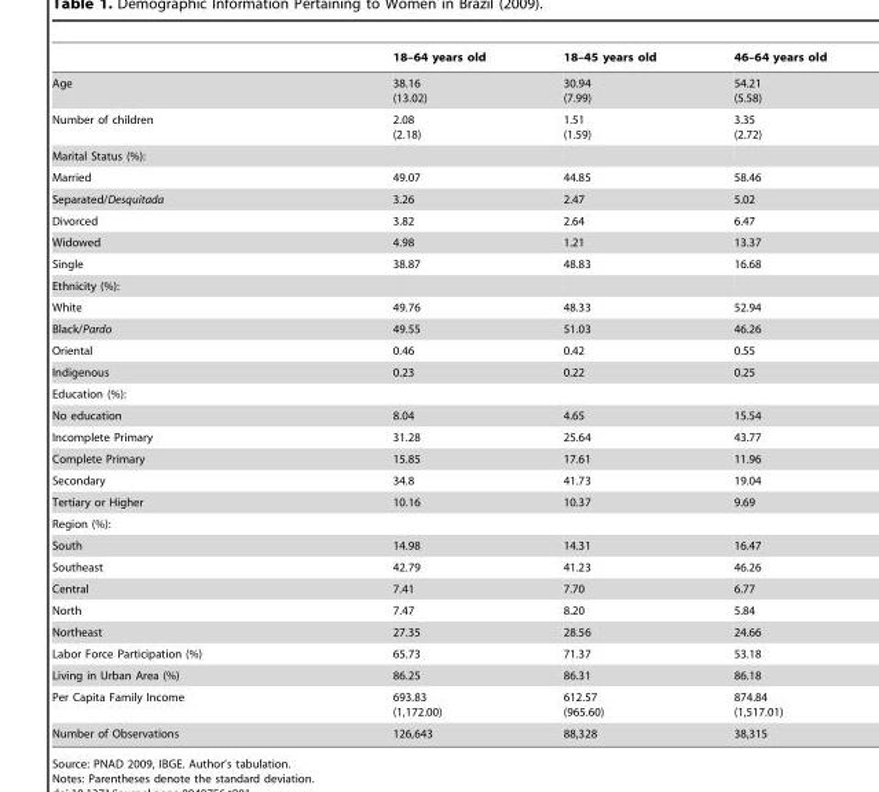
<table><thead><tr><td></td><td>18–64 years old</td><td>18–45 years old</td><td>46–64 years old</td></tr></thead><tbody><tr><td>Age</td><td>38.16 (13.02)</td><td>30.94 (7.99)</td><td>54.21 (5.58)</td></tr><tr><td>Number of children</td><td>2.08 (2.18)</td><td>1.51 (1.59)</td><td>3.35 (2.72)</td></tr><tr><td colspan="4">Marital Status (%):</td></tr><tr><td>Married</td><td>49.07</td><td>44.85</td><td>58.46</td></tr><tr><td>Separated/Desquitada</td><td>3.26</td><td>2.47</td><td>5.02</td></tr><tr><td>Divorced</td><td>3.82</td><td>2.64</td><td>6.47</td></tr><tr><td>Widowed</td><td>4.98</td><td>1.21</td><td>13.37</td></tr><tr><td>Single</td><td>38.87</td><td>48.83</td><td>16.68</td></tr><tr><td colspan="4">Ethnicity (%):</td></tr><tr><td>White</td><td>49.76</td><td>48.33</td><td>52.94</td></tr><tr><td>Black/Pardo</td><td>49.55</td><td>51.03</td><td>46.26</td></tr><tr><td>Oriental</td><td>0.46</td><td>0.42</td><td>0.55</td></tr><tr><td>Indigenous</td><td>0.23</td><td>0.22</td><td>0.25</td></tr><tr><td colspan="4">Education (%):</td></tr><tr><td>No education</td><td>8.04</td><td>4.65</td><td>15.54</td></tr><tr><td>Incomplete Primary</td><td>31.28</td><td>25.64</td><td>43.77</td></tr><tr><td>Complete Primary</td><td>15.85</td><td>17.61</td><td>11.96</td></tr><tr><td>Secondary</td><td>34.8</td><td>41.73</td><td>19.04</td></tr><tr><td>Tertiary or Higher</td><td>10.16</td><td>10.37</td><td>9.69</td></tr><tr><td colspan="4">Region (%):</td></tr><tr><td>South</td><td>14.98</td><td>14.31</td><td>16.47</td></tr><tr><td>Southeast</td><td>42.79</td><td>41.23</td><td>46.26</td></tr><tr><td>Central</td><td>7.41</td><td>7.70</td><td>6.77</td></tr><tr><td>North</td><td>7.47</td><td>8.20</td><td>5.84</td></tr><tr><td>Northeast</td><td>27.35</td><td>28.56</td><td>24.66</td></tr><tr><td>Labor Force Participation (%)</td><td>65.73</td><td>71.37</td><td>53.18</td></tr><tr><td>Living in Urban Area (%)</td><td>86.25</td><td>86.31</td><td>86.18</td></tr><tr><td>Per Capita Family Income</td><td>693.83 (1,172.00)</td><td>612.57 (965.60)</td><td>874.84 (1,517.01)</td></tr><tr><td>Number of Observations</td><td>126,643</td><td>88,328</td><td>38,315</td></tr></tbody></table>